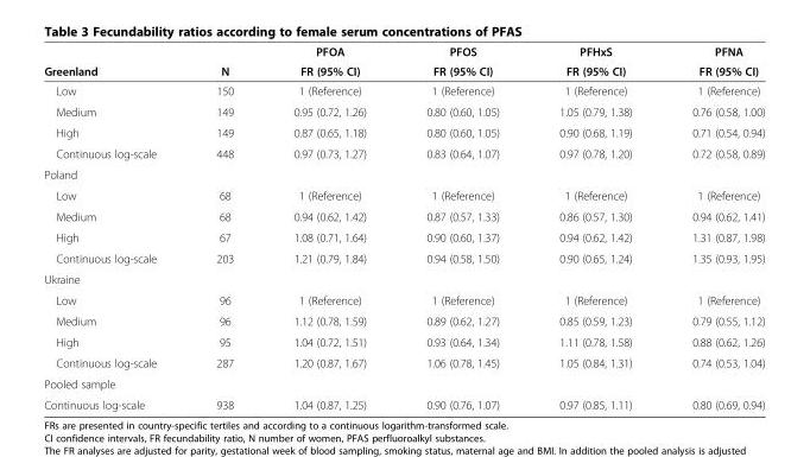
<table><thead><tr><td rowspan="2">Greenland</td><td rowspan="2">N</td><td rowspan="2">PFOA FR (95% CI)</td><td rowspan="2">PFOS FR (95% CI)</td><td rowspan="2">PFHxS FR (95% CI)</td><td rowspan="2">PFNA FR (95% CI)</td></tr><tr></tr></thead><tbody><tr><td>Low</td><td>150</td><td>1 (Reference)</td><td>1 (Reference)</td><td>1 (Reference)</td><td>1 (Reference)</td></tr><tr><td>Medium</td><td>149</td><td>0.95 (0.72, 1.26)</td><td>0.80 (0.60, 1.05)</td><td>1.05 (0.79, 1.38)</td><td>0.76 (0.58, 1.00)</td></tr><tr><td>High</td><td>149</td><td>0.87 (0.65, 1.18)</td><td>0.80 (0.60, 1.05)</td><td>0.90 (0.68, 1.19)</td><td>0.71 (0.54, 0.94)</td></tr><tr><td>Continuous log-scale</td><td>448</td><td>0.97 (0.73, 1.27)</td><td>0.83 (0.64, 1.07)</td><td>0.97 (0.78, 1.20)</td><td>0.72 (0.58, 0.89)</td></tr><tr><td colspan="6">Poland</td></tr><tr><td>Low</td><td>68</td><td>1 (Reference)</td><td>1 (Reference)</td><td>1 (Reference)</td><td>1 (Reference)</td></tr><tr><td>Medium</td><td>68</td><td>0.94 (0.62, 1.42)</td><td>0.87 (0.57, 1.33)</td><td>0.86 (0.57, 1.30)</td><td>0.94 (0.62, 1.41)</td></tr><tr><td>High</td><td>67</td><td>1.08 (0.71, 1.64)</td><td>0.90 (0.60, 1.37)</td><td>0.94 (0.62, 1.42)</td><td>1.31 (0.87, 1.98)</td></tr><tr><td>Continuous log-scale</td><td>203</td><td>1.21 (0.79, 1.84)</td><td>0.94 (0.58, 1.50)</td><td>0.90 (0.65, 1.24)</td><td>1.35 (0.93, 1.95)</td></tr><tr><td colspan="6">Ukraine</td></tr><tr><td>Low</td><td>96</td><td>1 (Reference)</td><td>1 (Reference)</td><td>1 (Reference)</td><td>1 (Reference)</td></tr><tr><td>Medium</td><td>96</td><td>1.12 (0.78, 1.59)</td><td>0.89 (0.62, 1.27)</td><td>0.85 (0.59, 1.23)</td><td>0.79 (0.55, 1.12)</td></tr><tr><td>High</td><td>95</td><td>1.04 (0.72, 1.51)</td><td>0.93 (0.64, 1.34)</td><td>1.11 (0.78, 1.58)</td><td>0.88 (0.62, 1.26)</td></tr><tr><td>Continuous log-scale</td><td>287</td><td>1.20 (0.87, 1.67)</td><td>1.06 (0.78, 1.45)</td><td>1.05 (0.84, 1.31)</td><td>0.74 (0.53, 1.04)</td></tr><tr><td colspan="6">Pooled sample</td></tr><tr><td>Continuous log-scale</td><td>938</td><td>1.04 (0.87, 1.25)</td><td>0.90 (0.76, 1.07)</td><td>0.97 (0.85, 1.11)</td><td>0.80 (0.69, 0.94)</td></tr></tbody></table>